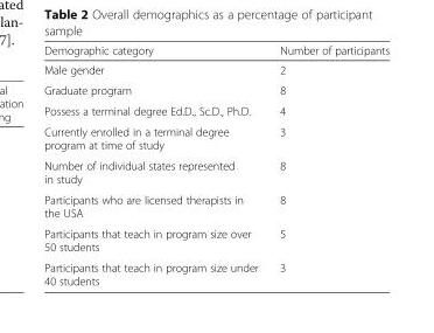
<table><thead><tr><td>Demographic category</td><td>Number of participants</td></tr></thead><tbody><tr><td>Male gender</td><td>2</td></tr><tr><td>Graduate program</td><td>8</td></tr><tr><td>Possess a terminal degree Ed.D., Sc.D., Ph.D.</td><td>4</td></tr><tr><td>Currently enrolled in a terminal degree program at time of study</td><td>3</td></tr><tr><td>Number of individual states represented in study</td><td>8</td></tr><tr><td>Participants who are licensed therapists in the USA</td><td>8</td></tr><tr><td>Participants that teach in program size over 50 students</td><td>5</td></tr><tr><td>Participants that teach in program size under 40 students</td><td>3</td></tr></tbody></table>